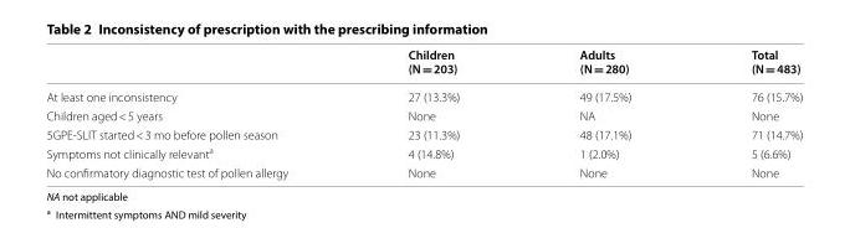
<table><thead><tr><td></td><td>Children (N = 203)</td><td>Adults (N = 280)</td><td>Total (N = 483)</td></tr></thead><tbody><tr><td>At least one inconsistency</td><td>27 (13.3%)</td><td>49 (17.5%)</td><td>76 (15.7%)</td></tr><tr><td>Children aged &lt; 5 years</td><td>None</td><td>NA</td><td>None</td></tr><tr><td>5GPE‑SLIT started &lt; 3 mo before pollen season</td><td>23 (11.3%)</td><td>48 (17.1%)</td><td>71 (14.7%)</td></tr><tr><td>Symptoms not clinically relevant<sup>a</sup></td><td>4 (14.8%)</td><td>1 (2.0%)</td><td>5 (6.6%)</td></tr><tr><td>No confirmatory diagnostic test of pollen allergy</td><td>None</td><td>None</td><td>None</td></tr></tbody></table>